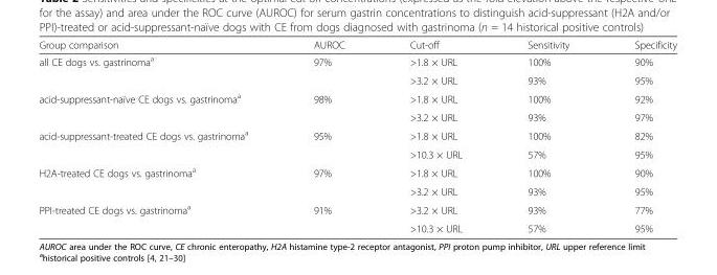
<table><thead><tr><td>Group comparison</td><td>AUROC</td><td>Cut-off</td><td>Sensitivity</td><td>Specificity</td></tr></thead><tbody><tr><td rowspan="2">all CE dogs vs. gastrinoma<sup>a</sup></td><td rowspan="2">97%</td><td>&gt;1.8 × URL</td><td>100%</td><td>90%</td></tr><tr><td>&gt;3.2 × URL</td><td>93%</td><td>95%</td></tr><tr><td rowspan="2">acid-suppressant-naïve CE dogs vs. gastrinoma<sup>a</sup></td><td rowspan="2">98%</td><td>&gt;1.8 × URL</td><td>100%</td><td>92%</td></tr><tr><td>&gt;3.2 × URL</td><td>93%</td><td>97%</td></tr><tr><td rowspan="2">acid-suppressant-treated CE dogs vs. gastrinoma<sup>a</sup></td><td rowspan="2">95%</td><td>&gt;1.8 × URL</td><td>100%</td><td>82%</td></tr><tr><td>&gt;10.3 × URL</td><td>57%</td><td>95%</td></tr><tr><td rowspan="2">H2A-treated CE dogs vs. gastrinoma<sup>a</sup></td><td rowspan="2">97%</td><td>&gt;1.8 × URL</td><td>100%</td><td>90%</td></tr><tr><td>&gt;3.2 × URL</td><td>93%</td><td>95%</td></tr><tr><td rowspan="2">PPI-treated CE dogs vs. gastrinoma<sup>a</sup></td><td rowspan="2">91%</td><td>&gt;3.2 × URL</td><td>93%</td><td>77%</td></tr><tr><td>&gt;10.3 × URL</td><td>57%</td><td>95%</td></tr></tbody></table>